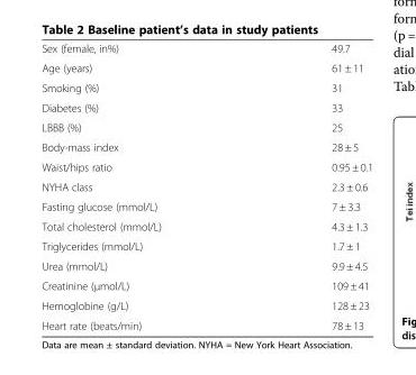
<table><tbody><tr><td>Sex (female, in%)</td><td>49.7</td></tr><tr><td>Age (years)</td><td>61 ± 11</td></tr><tr><td>Smoking (%)</td><td>31</td></tr><tr><td>Diabetes (%)</td><td>33</td></tr><tr><td>LBBB (%)</td><td>25</td></tr><tr><td>Body-mass index</td><td>28 ± 5</td></tr><tr><td>Waist/hips ratio</td><td>0.95 ± 0.1</td></tr><tr><td>NYHA class</td><td>2.3 ± 0.6</td></tr><tr><td>Fasting glucose (mmol/L)</td><td>7 ± 3.3</td></tr><tr><td>Total cholesterol (mmol/L)</td><td>4.3 ± 1.3</td></tr><tr><td>Triglycerides (mmol/L)</td><td>1.7 ± 1</td></tr><tr><td>Urea (mmol/L)</td><td>9.9 ± 4.5</td></tr><tr><td>Creatinine (μmol/L)</td><td>109 ± 41</td></tr><tr><td>Hemoglobine (g/L)</td><td>128 ± 23</td></tr><tr><td>Heart rate (beats/min)</td><td>78 ± 13</td></tr></tbody></table>